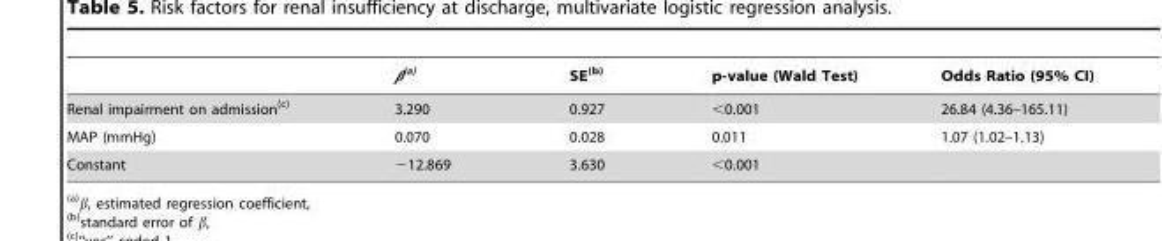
<table><thead><tr><td></td><td>β(a)</td><td>SE(b)</td><td>p-value (Wald Test)</td><td>Odds Ratio (95% CI)</td></tr></thead><tbody><tr><td>Renal impairment on admission(c)</td><td>3.290</td><td>0.927</td><td>&lt;0.001</td><td>26.84 (4.36–165.11)</td></tr><tr><td>MAP (mmHg)</td><td>0.070</td><td>0.028</td><td>0.011</td><td>1.07 (1.02–1.13)</td></tr><tr><td>Constant</td><td>−12.869</td><td>3.630</td><td>&lt;0.001</td><td></td></tr></tbody></table>